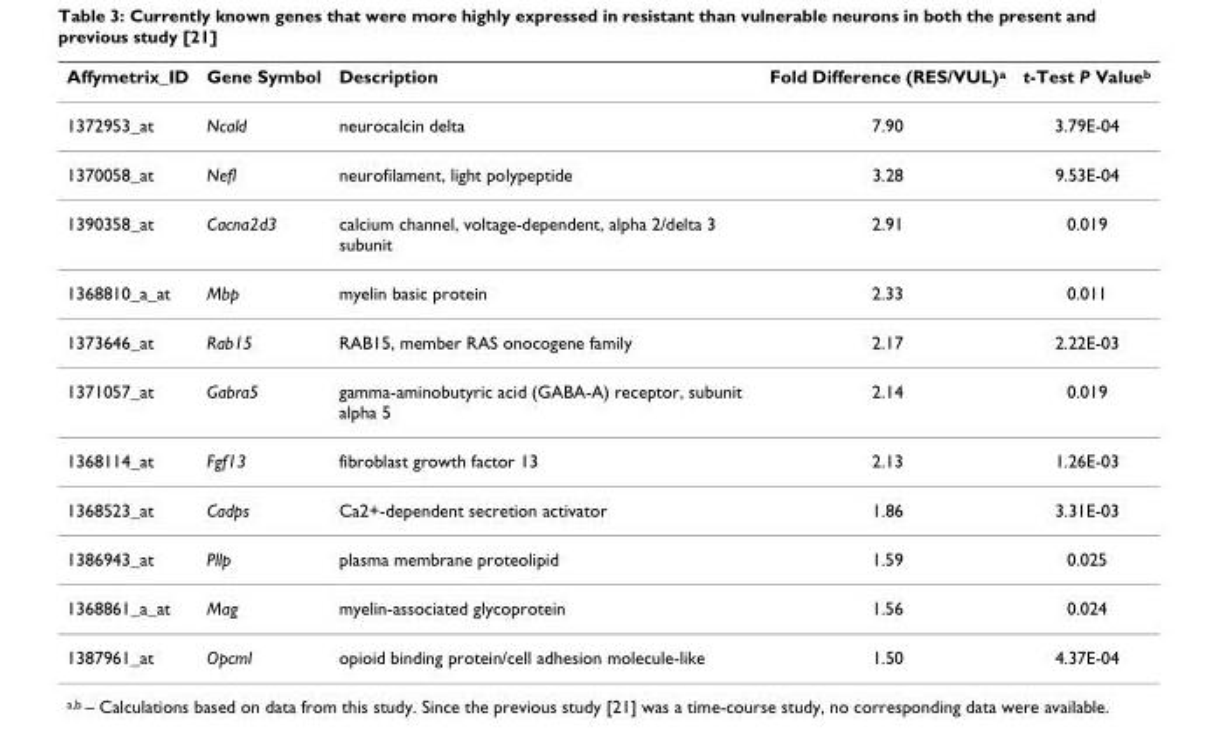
<table><thead><tr><td>Affymetrix_ID</td><td>Gene Symbol</td><td>Description</td><td>Fold Difference (RES/VUL)<sup>a</sup></td><td>t-Test P Value<sup>b</sup></td></tr></thead><tbody><tr><td>1372953_at</td><td>Ncald</td><td>neurocalcin delta</td><td>7.90</td><td>3.79E-04</td></tr><tr><td>1370058_at</td><td>Nefl</td><td>neurofilament, light polypeptide</td><td>3.28</td><td>9.53E-04</td></tr><tr><td>1390358_at</td><td>Cacna2d3</td><td>calcium channel, voltage-dependent, alpha 2/delta 3 subunit</td><td>2.91</td><td>0.019</td></tr><tr><td>1368810_a_at</td><td>Mbp</td><td>myelin basic protein</td><td>2.33</td><td>0.011</td></tr><tr><td>1373646_at</td><td>Rab15</td><td>RAB15, member RAS onocogene family</td><td>2.17</td><td>2.22E-03</td></tr><tr><td>1371057_at</td><td>Gabra5</td><td>gamma-aminobutyric acid (GABA-A) receptor, subunit alpha 5</td><td>2.14</td><td>0.019</td></tr><tr><td>1368114_at</td><td>Fgf13</td><td>fibroblast growth factor 13</td><td>2.13</td><td>1.26E-03</td></tr><tr><td>1368523_at</td><td>Cadps</td><td>Ca2+-dependent secretion activator</td><td>1.86</td><td>3.31E-03</td></tr><tr><td>1386943_at</td><td>Pllp</td><td>plasma membrane proteolipid</td><td>1.59</td><td>0.025</td></tr><tr><td>1368861_a_at</td><td>Mag</td><td>myelin-associated glycoprotein</td><td>1.56</td><td>0.024</td></tr><tr><td>1387961_at</td><td>Opcml</td><td>opioid binding protein/cell adhesion molecule-like</td><td>1.50</td><td>4.37E-04</td></tr></tbody></table>